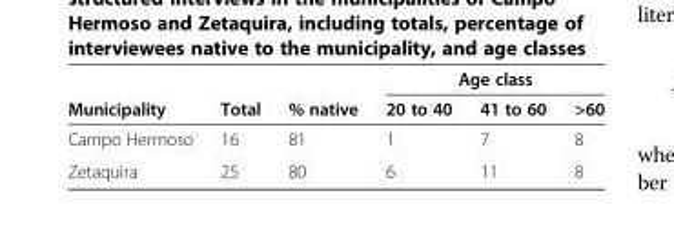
<table><thead><tr><td rowspan="2">Municipality</td><td rowspan="2">Total</td><td rowspan="2">% native</td><td colspan="3">Age class</td></tr><tr><td>20 to 40</td><td>41 to 60</td><td>&gt;60</td></tr></thead><tbody><tr><td>Campo Hermoso</td><td>16</td><td>81</td><td>1</td><td>7</td><td>8</td></tr><tr><td>Zetaquira</td><td>25</td><td>80</td><td>6</td><td>11</td><td>8</td></tr></tbody></table>